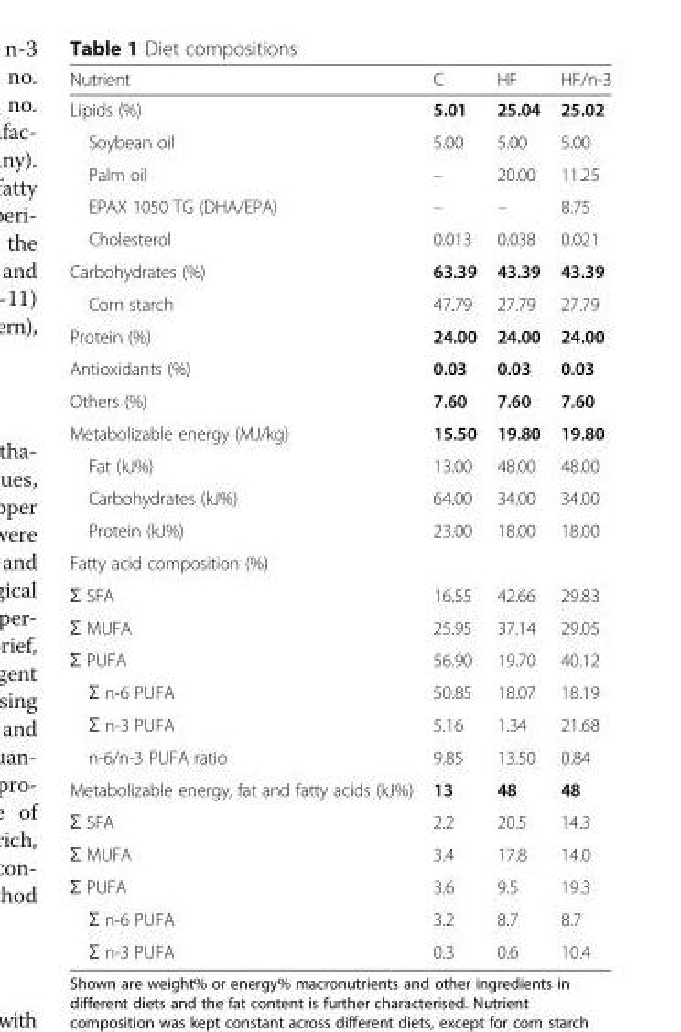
<table><thead><tr><td>Nutrient</td><td>C</td><td>HF</td><td>HF/n-3</td></tr></thead><tbody><tr><td>Lipids (%)</td><td>5.01</td><td>25.04</td><td>25.02</td></tr><tr><td>Soybean oil</td><td>5.00</td><td>5.00</td><td>5.00</td></tr><tr><td>Palm oil</td><td>–</td><td>20.00</td><td>11.25</td></tr><tr><td>EPAX 1050 TG (DHA/EPA)</td><td>–</td><td>–</td><td>8.75</td></tr><tr><td>Cholesterol</td><td>0.013</td><td>0.038</td><td>0.021</td></tr><tr><td>Carbohydrates (%)</td><td>63.39</td><td>43.39</td><td>43.39</td></tr><tr><td>Corn starch</td><td>47.79</td><td>27.79</td><td>27.79</td></tr><tr><td>Protein (%)</td><td>24.00</td><td>24.00</td><td>24.00</td></tr><tr><td>Antioxidants (%)</td><td>0.03</td><td>0.03</td><td>0.03</td></tr><tr><td>Others (%)</td><td>7.60</td><td>7.60</td><td>7.60</td></tr><tr><td>Metabolizable energy (MJ/kg)</td><td>15.50</td><td>19.80</td><td>19.80</td></tr><tr><td>Fat (kJ%)</td><td>13.00</td><td>48.00</td><td>48.00</td></tr><tr><td>Carbohydrates (kJ%)</td><td>64.00</td><td>34.00</td><td>34.00</td></tr><tr><td>Protein (kJ%)</td><td>23.00</td><td>18.00</td><td>18.00</td></tr><tr><td colspan="4">Fatty acid composition (%)</td></tr><tr><td>Ʃ SFA</td><td>16.55</td><td>42.66</td><td>29.83</td></tr><tr><td>Ʃ MUFA</td><td>25.95</td><td>37.14</td><td>29.05</td></tr><tr><td>Ʃ PUFA</td><td>56.90</td><td>19.70</td><td>40.12</td></tr><tr><td>Ʃ n-6 PUFA</td><td>50.85</td><td>18.07</td><td>18.19</td></tr><tr><td>Ʃ n-3 PUFA</td><td>5.16</td><td>1.34</td><td>21.68</td></tr><tr><td>n-6/n-3 PUFA ratio</td><td>9.85</td><td>13.50</td><td>0.84</td></tr><tr><td>Metabolizable energy, fat and fatty acids (kJ%)</td><td>13</td><td>48</td><td>48</td></tr><tr><td>Ʃ SFA</td><td>2.2</td><td>20.5</td><td>14.3</td></tr><tr><td>Ʃ MUFA</td><td>3.4</td><td>17.8</td><td>14.0</td></tr><tr><td>Ʃ PUFA</td><td>3.6</td><td>9.5</td><td>19.3</td></tr><tr><td>Ʃ n-6 PUFA</td><td>3.2</td><td>8.7</td><td>8.7</td></tr><tr><td>Ʃ n-3 PUFA</td><td>0.3</td><td>0.6</td><td>10.4</td></tr></tbody></table>